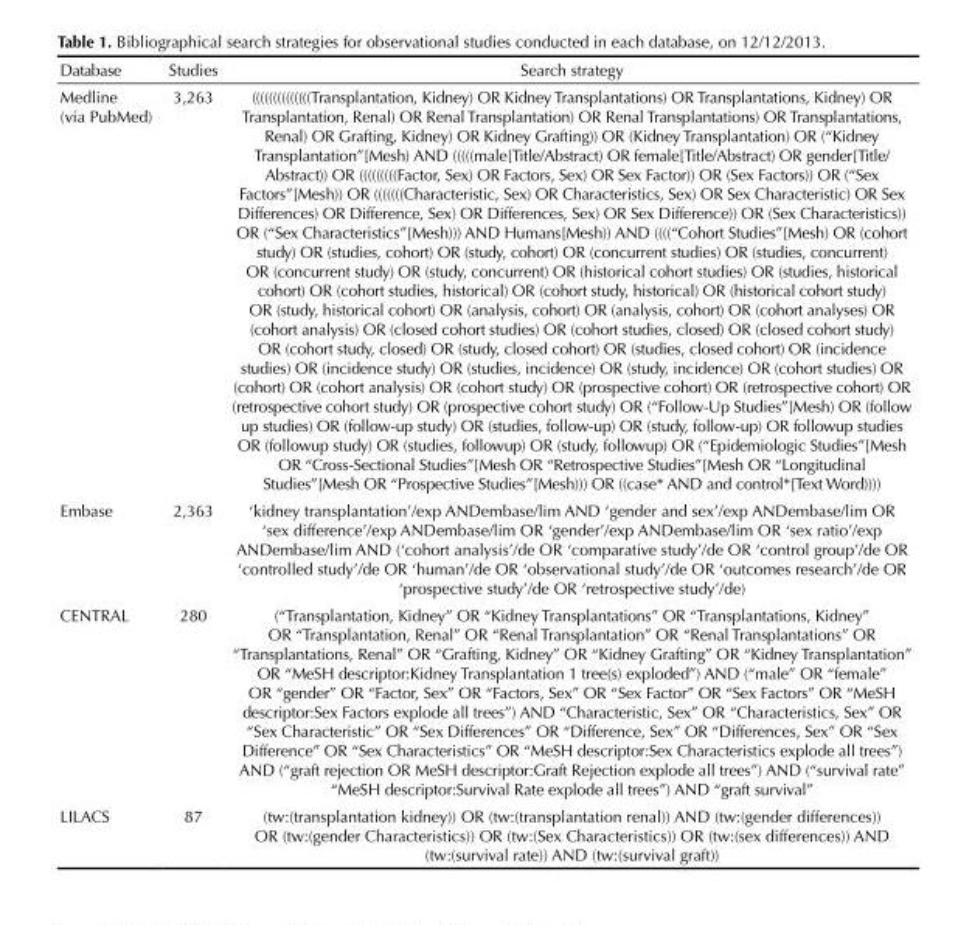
<table><thead><tr><td>Database</td><td>Studies</td><td>Search strategy</td></tr></thead><tbody><tr><td>Medline (via PubMed)</td><td>3,263</td><td>((((((((((((((Transplantation, Kidney) OR Kidney Transplantations) OR Transplantations, Kidney) OR Transplantation, Renal) OR Renal Transplantation) OR Renal Transplantations) OR Transplantations, Renal) OR Grafting, Kidney) OR Kidney Grafting)) OR (Kidney Transplantation) OR (“Kidney Transplantation”[Mesh) AND (((((male[Title/Abstract) OR female[Title/Abstract) OR gender[Title/ Abstract)) OR (((((((((Factor, Sex) OR Factors, Sex) OR Sex Factor)) OR (Sex Factors)) OR (“Sex Factors”[Mesh)) OR (((((((Characteristic, Sex) OR Characteristics, Sex) OR Sex Characteristic) OR Sex Differences) OR Difference, Sex) OR Differences, Sex) OR Sex Difference)) OR (Sex Characteristics)) OR (“Sex Characteristics”[Mesh))) AND Humans[Mesh)) AND ((((“Cohort Studies”[Mesh) OR (cohort study) OR (studies, cohort) OR (study, cohort) OR (concurrent studies) OR (studies, concurrent) OR (concurrent study) OR (study, concurrent) OR (historical cohort studies) OR (studies, historical cohort) OR (cohort studies, historical) OR (cohort study, historical) OR (historical cohort study) OR (study, historical cohort) OR (analysis, cohort) OR (analysis, cohort) OR (cohort analyses) OR (cohort analysis) OR (closed cohort studies) OR (cohort studies, closed) OR (closed cohort study) OR (cohort study, closed) OR (study, closed cohort) OR (studies, closed cohort) OR (incidence studies) OR (incidence study) OR (studies, incidence) OR (study, incidence) OR (cohort studies) OR (cohort) OR (cohort analysis) OR (cohort study) OR (prospective cohort) OR (retrospective cohort) OR (retrospective cohort study) OR (prospective cohort study) OR (“Follow-Up Studies”[Mesh) OR (follow up studies) OR (follow-up study) OR (studies, follow-up) OR (study, follow-up) OR followup studies OR (followup study) OR (studies, followup) OR (study, followup) OR (“Epidemiologic Studies”[Mesh OR “Cross-Sectional Studies”[Mesh OR “Retrospective Studies”[Mesh OR “Longitudinal Studies”[Mesh OR “Prospective Studies”[Mesh))) OR ((case* AND and control*[Text Word))))</td></tr><tr><td>Embase</td><td>2,363</td><td>‘kidney transplantation’/exp ANDembase/lim AND ‘gender and sex’/exp ANDembase/lim OR ‘sex difference’/exp ANDembase/lim OR ‘gender’/exp ANDembase/lim OR ‘sex ratio’/exp ANDembase/lim AND (‘cohort analysis’/de OR ‘comparative study’/de OR ‘control group’/de OR ‘controlled study’/de OR ‘human’/de OR ‘observational study’/de OR ‘outcomes research’/de OR ‘prospective study’/de OR ‘retrospective study’/de)</td></tr><tr><td>CENTRAL</td><td>280</td><td>(“Transplantation, Kidney” OR “Kidney Transplantations” OR “Transplantations, Kidney” OR “Transplantation, Renal” OR “Renal Transplantation” OR “Renal Transplantations” OR “Transplantations, Renal” OR “Grafting, Kidney” OR “Kidney Grafting” OR “Kidney Transplantation” OR “MeSH descriptor:Kidney Transplantation 1 tree(s) exploded”) AND (“male” OR “female” OR “gender” OR “Factor, Sex” OR “Factors, Sex” OR “Sex Factor” OR “Sex Factors” OR “MeSH descriptor:Sex Factors explode all trees”) AND “Characteristic, Sex” OR “Characteristics, Sex” OR “Sex Characteristic” OR “Sex Differences” OR “Difference, Sex” OR “Differences, Sex” OR “Sex Difference” OR “Sex Characteristics” OR “MeSH descriptor:Sex Characteristics explode all trees”) AND (“graft rejection OR MeSH descriptor:Graft Rejection explode all trees”) AND (“survival rate” “MeSH descriptor:Survival Rate explode all trees”) AND “graft survival”</td></tr><tr><td>LILACS</td><td>87</td><td>(tw:(transplantation kidney)) OR (tw:(transplantation renal)) AND (tw:(gender differences)) OR (tw:(gender Characteristics)) OR (tw:(Sex Characteristics)) OR (tw:(sex differences)) AND (tw:(survival rate)) AND (tw:(survival graft))</td></tr></tbody></table>